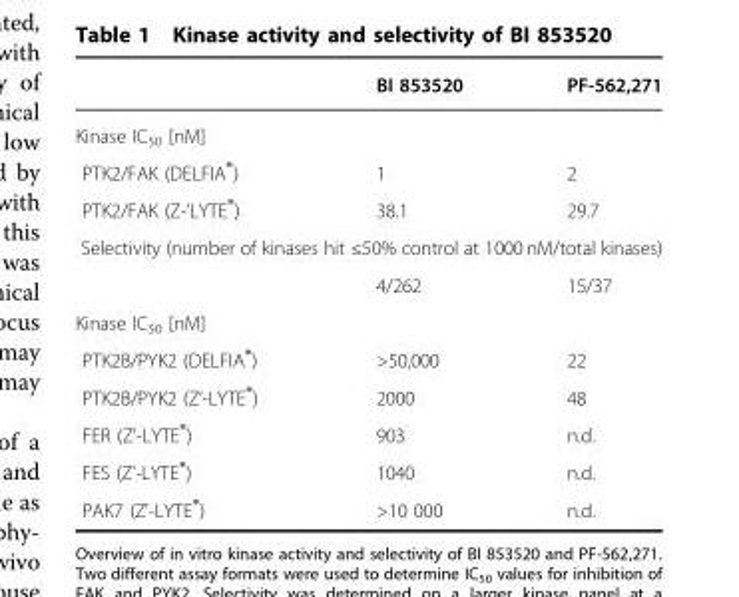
<table><thead><tr><td></td><td>BI 853520</td><td>PF-562,271</td></tr></thead><tbody><tr><td colspan="3">Kinase IC<sub>50</sub> [nM]</td></tr><tr><td>PTK2/FAK (DELFIA<sup>®</sup>)</td><td>1</td><td>2</td></tr><tr><td>PTK2/FAK (Z-&#x27;LYTE<sup>®</sup>)</td><td>38.1</td><td>29.7</td></tr><tr><td colspan="3">Selectivity (number of kinases hit ≤50% control at 1000 nM/total kinases)</td></tr><tr><td></td><td>4/262</td><td>15/37</td></tr><tr><td colspan="3">Kinase IC<sub>50</sub> [nM]</td></tr><tr><td>PTK2B/PYK2 (DELFIA<sup>®</sup>)</td><td>&gt;50,000</td><td>22</td></tr><tr><td>PTK2B/PYK2 (Z’-LYTE<sup>®</sup>)</td><td>2000</td><td>48</td></tr><tr><td>FER (Z&#x27;-LYTE<sup>®</sup>)</td><td>903</td><td>n.d.</td></tr><tr><td>FES (Z&#x27;-LYTE<sup>®</sup>)</td><td>1040</td><td>n.d.</td></tr><tr><td>PAK7 (Z&#x27;-LYTE<sup>®</sup>)</td><td>&gt;10 000</td><td>n.d.</td></tr></tbody></table>